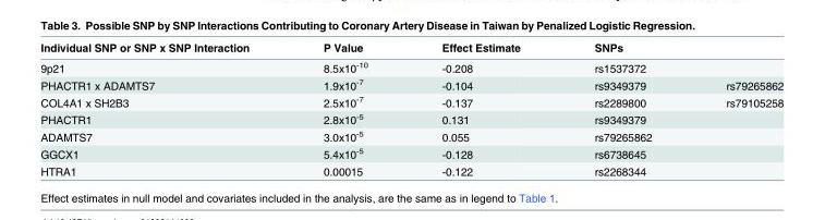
<table><thead><tr><td rowspan="2">Individual SNP or SNP x SNP Interaction 9p21</td><td rowspan="2">P Value 8.5x10<sup>-10</sup></td><td rowspan="2">Effect Estimate -0.208</td><td colspan="2">SNPs</td></tr><tr><td>rs1537372</td><td></td></tr></thead><tbody><tr><td>PHACTR1 x ADAMTS7</td><td>1.9x10<sup>-7</sup></td><td>-0.104</td><td>rs9349379</td><td>rs79265862</td></tr><tr><td>COL4A1 x SH2B3</td><td>2.5x10<sup>-7</sup></td><td>-0.137</td><td>rs2289800</td><td>rs79105258</td></tr><tr><td>PHACTR1</td><td>2.8x10<sup>-5</sup></td><td>0.131</td><td>rs9349379</td><td></td></tr><tr><td>ADAMTS7</td><td>3.0x10<sup>-5</sup></td><td>0.055</td><td>rs79265862</td><td></td></tr><tr><td>GGCX1</td><td>5.4x10<sup>-5</sup></td><td>-0.128</td><td>rs6738645</td><td></td></tr><tr><td>HTRA1</td><td>0.00015</td><td>-0.122</td><td>rs2268344</td><td></td></tr></tbody></table>